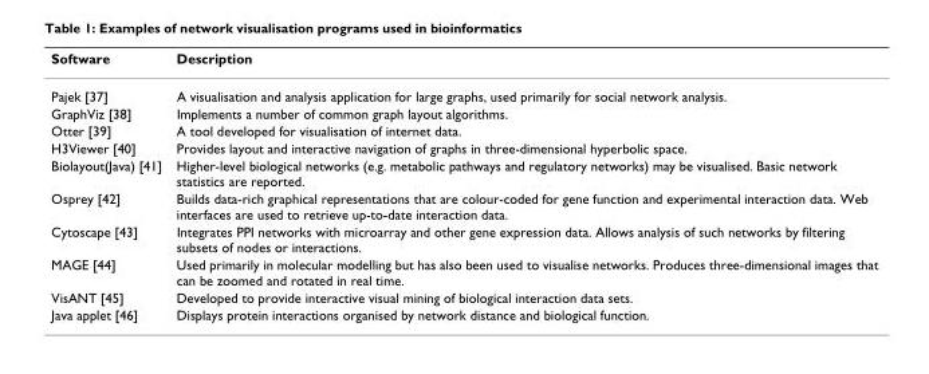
<table><thead><tr><td>Software</td><td>Description</td></tr></thead><tbody><tr><td>Pajek [37]</td><td>A visualisation and analysis application for large graphs, used primarily for social network analysis.</td></tr><tr><td>GraphViz [38]</td><td>Implements a number of common graph layout algorithms.</td></tr><tr><td>Otter [39]</td><td>A tool developed for visualisation of internet data.</td></tr><tr><td>H3Viewer [40]</td><td>Provides layout and interactive navigation of graphs in three-dimensional hyperbolic space.</td></tr><tr><td>Biolayout(Java) [41]</td><td>Higher-level biological networks (e.g. metabolic pathways and regulatory networks) may be visualised. Basic network statistics are reported.</td></tr><tr><td>Osprey [42]</td><td>Builds data-rich graphical representations that are colour-coded for gene function and experimental interaction data. Web interfaces are used to retrieve up-to-date interaction data.</td></tr><tr><td>Cytoscape [43]</td><td>Integrates PPI networks with microarray and other gene expression data. Allows analysis of such networks by filtering subsets of nodes or interactions.</td></tr><tr><td>MAGE [44]</td><td>Used primarily in molecular modelling but has also been used to visualise networks. Produces three-dimensional images that can be zoomed and rotated in real time.</td></tr><tr><td>VisANT [45]</td><td>Developed to provide interactive visual mining of biological interaction data sets.</td></tr><tr><td>Java applet [46]</td><td>Displays protein interactions organised by network distance and biological function.</td></tr></tbody></table>